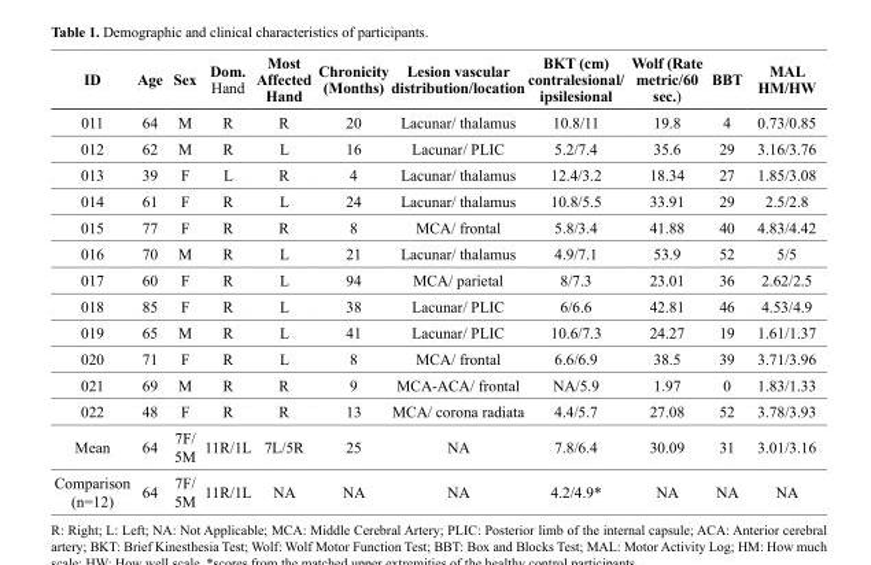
<table><thead><tr><td>ID</td><td>Age</td><td>Sex</td><td>Dom. Hand</td><td>Most Affected Hand</td><td>Chronicity (Months)</td><td>Lesion vascular distribution/location</td><td>BKT (cm) contralesional/ ipsilesional</td><td>Wolf (Rate metric/60 sec.)</td><td>BBT</td><td>MAL HM/HW</td></tr></thead><tbody><tr><td>011</td><td>64</td><td>M</td><td>R</td><td>R</td><td>20</td><td>Lacunar/ thalamus</td><td>10.8/11</td><td>19.8</td><td>4</td><td>0.73/0.85</td></tr><tr><td>012</td><td>62</td><td>M</td><td>R</td><td>L</td><td>16</td><td>Lacunar/ PLIC</td><td>5.2/7.4</td><td>35.6</td><td>29</td><td>3.16/3.76</td></tr><tr><td>013</td><td>39</td><td>F</td><td>L</td><td>R</td><td>4</td><td>Lacunar/ thalamus</td><td>12.4/3.2</td><td>18.34</td><td>27</td><td>1.85/3.08</td></tr><tr><td>014</td><td>61</td><td>F</td><td>R</td><td>L</td><td>24</td><td>Lacunar/ thalamus</td><td>10.8/5.5</td><td>33.91</td><td>29</td><td>2.5/2.8</td></tr><tr><td>015</td><td>77</td><td>F</td><td>R</td><td>R</td><td>8</td><td>MCA/ frontal</td><td>5.8/3.4</td><td>41.88</td><td>40</td><td>4.83/4.42</td></tr><tr><td>016</td><td>70</td><td>M</td><td>R</td><td>L</td><td>21</td><td>Lacunar/ thalamus</td><td>4.9/7.1</td><td>53.9</td><td>52</td><td>5/5</td></tr><tr><td>017</td><td>60</td><td>F</td><td>R</td><td>L</td><td>94</td><td>MCA/ parietal</td><td>8/7.3</td><td>23.01</td><td>36</td><td>2.62/2.5</td></tr><tr><td>018</td><td>85</td><td>F</td><td>R</td><td>L</td><td>38</td><td>Lacunar/ PLIC</td><td>6/6.6</td><td>42.81</td><td>46</td><td>4.53/4.9</td></tr><tr><td>019</td><td>65</td><td>M</td><td>R</td><td>L</td><td>41</td><td>Lacunar/ PLIC</td><td>10.6/7.3</td><td>24.27</td><td>19</td><td>1.61/1.37</td></tr><tr><td>020</td><td>71</td><td>F</td><td>R</td><td>L</td><td>8</td><td>MCA/ frontal</td><td>6.6/6.9</td><td>38.5</td><td>39</td><td>3.71/3.96</td></tr><tr><td>021</td><td>69</td><td>M</td><td>R</td><td>R</td><td>9</td><td>MCA-ACA/ frontal</td><td>NA/5.9</td><td>1.97</td><td>0</td><td>1.83/1.33</td></tr><tr><td>022</td><td>48</td><td>F</td><td>R</td><td>R</td><td>13</td><td>MCA/ corona radiata</td><td>4.4/5.7</td><td>27.08</td><td>52</td><td>3.78/3.93</td></tr><tr><td>Mean</td><td>64</td><td>7F/ 5M</td><td>11R/1L</td><td>7L/5R</td><td>25</td><td>NA</td><td>7.8/6.4</td><td>30.09</td><td>31</td><td>3.01/3.16</td></tr><tr><td>Comparison (n=12)</td><td>64</td><td>7F/ 5M</td><td>11R/1L</td><td>NA</td><td>NA</td><td>NA</td><td>4.2/4.9*</td><td>NA</td><td>NA</td><td>NA</td></tr></tbody></table>